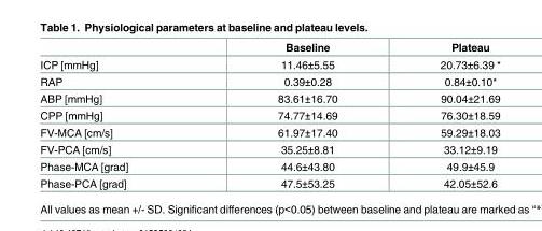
<table><thead><tr><td></td><td>Baseline</td><td>Plateau</td></tr></thead><tbody><tr><td>ICP [mmHg]</td><td>11.46±5.55</td><td>20.73±6.39 *</td></tr><tr><td>RAP</td><td>0.39±0.28</td><td>0.84±0.10*</td></tr><tr><td>ABP [mmHg]</td><td>83.61±16.70</td><td>90.04±21.69</td></tr><tr><td>CPP [mmHg]</td><td>74.77±14.69</td><td>76.30±18.59</td></tr><tr><td>FV-MCA [cm/s]</td><td>61.97±17.40</td><td>59.29±18.03</td></tr><tr><td>FV-PCA [cm/s]</td><td>35.25±8.81</td><td>33.12±9.19</td></tr><tr><td>Phase-MCA [grad]</td><td>44.6±43.80</td><td>49.9±45.9</td></tr><tr><td>Phase-PCA [grad]</td><td>47.5±53.25</td><td>42.05±52.6</td></tr></tbody></table>